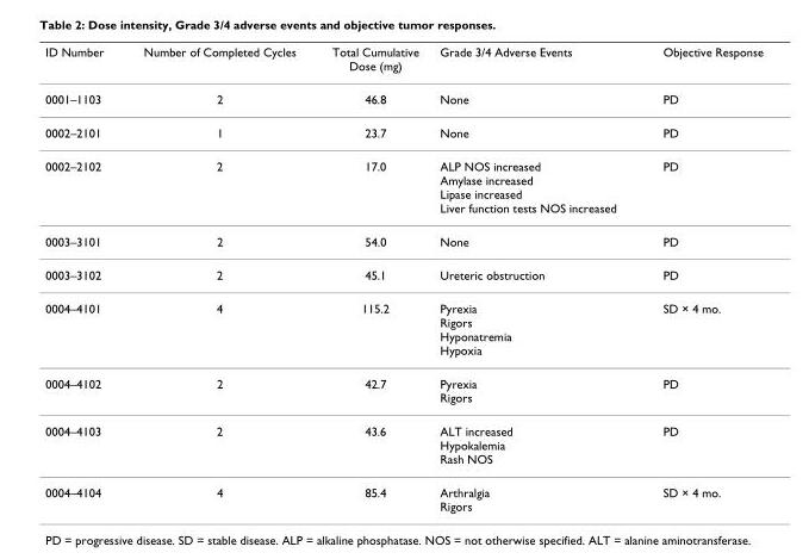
<table><thead><tr><td>ID Number</td><td>Number of Completed Cycles</td><td>Total Cumulative Dose (mg)</td><td>Grade 3/4 Adverse Events</td><td>Objective Response</td></tr></thead><tbody><tr><td>0001–1103</td><td>2</td><td>46.8</td><td>None</td><td>PD</td></tr><tr><td>0002–2101</td><td>1</td><td>23.7</td><td>None</td><td>PD</td></tr><tr><td>0002–2102</td><td>2</td><td>17.0</td><td>ALP NOS increased Amylase increased Lipase increased Liver function tests NOS increased</td><td>PD</td></tr><tr><td>0003–3101</td><td>2</td><td>54.0</td><td>None</td><td>PD</td></tr><tr><td>0003–3102</td><td>2</td><td>45.1</td><td>Ureteric obstruction</td><td>PD</td></tr><tr><td>0004–4101</td><td>4</td><td>115.2</td><td>Pyrexia Rigors Hyponatremia Hypoxia</td><td>SD × 4 mo.</td></tr><tr><td>0004–4102</td><td>2</td><td>42.7</td><td>Pyrexia Rigors</td><td>PD</td></tr><tr><td>0004–4103</td><td>2</td><td>43.6</td><td>ALT increased Hypokalemia Rash NOS</td><td>PD</td></tr><tr><td>0004–4104</td><td>4</td><td>85.4</td><td>Arthralgia Rigors</td><td>SD × 4 mo.</td></tr></tbody></table>